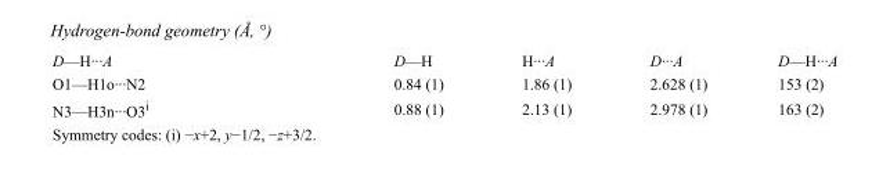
<table><tbody><tr><td>D—H···A</td><td>D—H</td><td>H···A</td><td>D···A</td><td>D—H···A</td></tr><tr><td>O1—H1o···N2</td><td>0.84 (1)</td><td>1.86 (1)</td><td>2.628 (1)</td><td>153 (2)</td></tr><tr><td>N3—H3n···O3<sup>i</sup></td><td>0.88 (1)</td><td>2.13 (1)</td><td>2.978 (1)</td><td>163 (2)</td></tr></tbody></table>